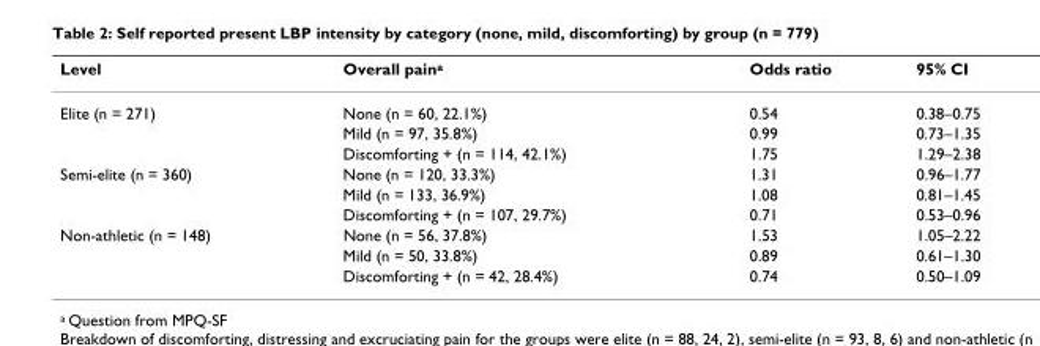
<table><thead><tr><td>Level</td><td>Overall paina</td><td>Odds ratio</td><td>95% CI</td></tr></thead><tbody><tr><td rowspan="3">Elite (n = 271)</td><td>None (n = 60, 22.1%)</td><td>0.54</td><td>0.38–0.75</td></tr><tr><td>Mild (n = 97, 35.8%)</td><td>0.99</td><td>0.73–1.35</td></tr><tr><td>Discomforting + (n = 114, 42.1%)</td><td>1.75</td><td>1.29–2.38</td></tr><tr><td rowspan="3">Semi-elite (n = 360)</td><td>None (n = 120, 33.3%)</td><td>1.31</td><td>0.96–1.77</td></tr><tr><td>Mild (n = 133, 36.9%)</td><td>1.08</td><td>0.81–1.45</td></tr><tr><td>Discomforting + (n = 107, 29.7%)</td><td>0.71</td><td>0.53–0.96</td></tr><tr><td rowspan="3">Non-athletic (n = 148)</td><td>None (n = 56, 37.8%)</td><td>1.53</td><td>1.05–2.22</td></tr><tr><td>Mild (n = 50, 33.8%)</td><td>0.89</td><td>0.61–1.30</td></tr><tr><td>Discomforting + (n = 42, 28.4%)</td><td>0.74</td><td>0.50–1.09</td></tr></tbody></table>